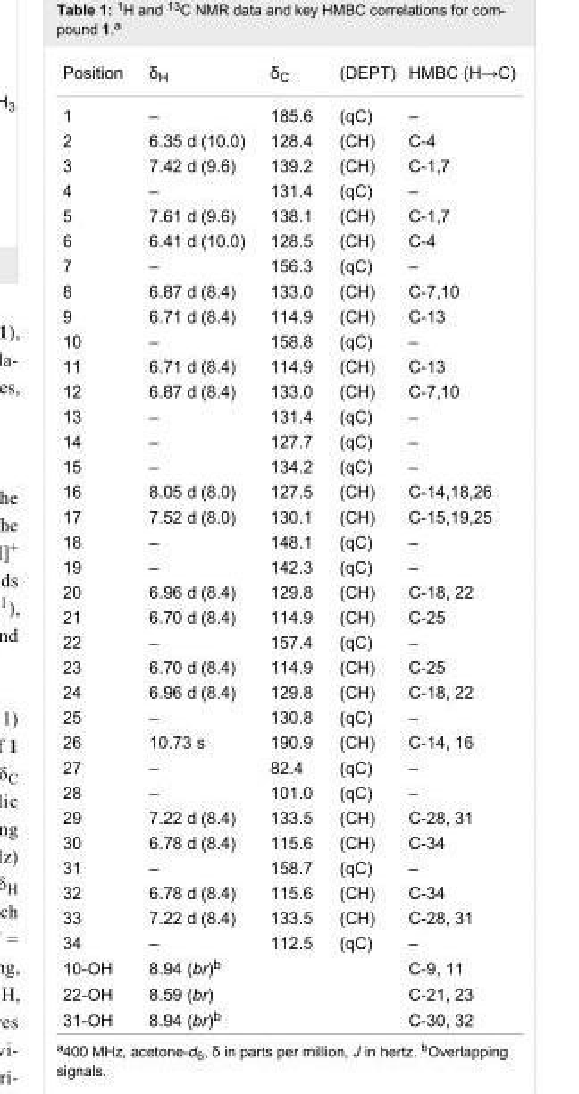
<table><tbody><tr><td>Position</td><td>δ<sub>H</sub></td><td>δ<sub>C</sub></td><td>(DEPT)</td><td>HMBC (H→C)</td></tr><tr><td>1</td><td>–</td><td>185.6</td><td>(qC)</td><td>–</td></tr><tr><td>2</td><td>6.35 d (10.0)</td><td>128.4</td><td>(CH)</td><td>C-4</td></tr><tr><td>3</td><td>7.42 d (9.6)</td><td>139.2</td><td>(CH)</td><td>C-1,7</td></tr><tr><td>4</td><td>–</td><td>131.4</td><td>(qC)</td><td>–</td></tr><tr><td>5</td><td>7.61 d (9.6)</td><td>138.1</td><td>(CH)</td><td>C-1,7</td></tr><tr><td>6</td><td>6.41 d (10.0)</td><td>128.5</td><td>(CH)</td><td>C-4</td></tr><tr><td>7</td><td>–</td><td>156.3</td><td>(qC)</td><td>–</td></tr><tr><td>8</td><td>6.87 d (8.4)</td><td>133.0</td><td>(CH)</td><td>C-7,10</td></tr><tr><td>9</td><td>6.71 d (8.4)</td><td>114.9</td><td>(CH)</td><td>C-13</td></tr><tr><td>10</td><td>–</td><td>158.8</td><td>(qC)</td><td>–</td></tr><tr><td>11</td><td>6.71 d (8.4)</td><td>114.9</td><td>(CH)</td><td>C-13</td></tr><tr><td>12</td><td>6.87 d (8.4)</td><td>133.0</td><td>(CH)</td><td>C-7,10</td></tr><tr><td>13</td><td>–</td><td>131.4</td><td>(qC)</td><td>–</td></tr><tr><td>14</td><td>–</td><td>127.7</td><td>(qC)</td><td>–</td></tr><tr><td>15</td><td>–</td><td>134.2</td><td>(qC)</td><td>–</td></tr><tr><td>16</td><td>8.05 d (8.0)</td><td>127.5</td><td>(CH)</td><td>C-14,18,26</td></tr><tr><td>17</td><td>7.52 d (8.0)</td><td>130.1</td><td>(CH)</td><td>C-15,19,25</td></tr><tr><td>18</td><td>–</td><td>148.1</td><td>(qC)</td><td>–</td></tr><tr><td>19</td><td>–</td><td>142.3</td><td>(qC)</td><td>–</td></tr><tr><td>20</td><td>6.96 d (8.4)</td><td>129.8</td><td>(CH)</td><td>C-18, 22</td></tr><tr><td>21</td><td>6.70 d (8.4)</td><td>114.9</td><td>(CH)</td><td>C-25</td></tr><tr><td>22</td><td>–</td><td>157.4</td><td>(qC)</td><td>–</td></tr><tr><td>23</td><td>6.70 d (8.4)</td><td>114.9</td><td>(CH)</td><td>C-25</td></tr><tr><td>24</td><td>6.96 d (8.4)</td><td>129.8</td><td>(CH)</td><td>C-18, 22</td></tr><tr><td>25</td><td>–</td><td>130.8</td><td>(qC)</td><td>–</td></tr><tr><td>26</td><td>10.73 s</td><td>190.9</td><td>(CH)</td><td>C-14, 16</td></tr><tr><td>27</td><td>–</td><td>82.4</td><td>(qC)</td><td>–</td></tr><tr><td>28</td><td>–</td><td>101.0</td><td>(qC)</td><td>–</td></tr><tr><td>29</td><td>7.22 d (8.4)</td><td>133.5</td><td>(CH)</td><td>C-28, 31</td></tr><tr><td>30</td><td>6.78 d (8.4)</td><td>115.6</td><td>(CH)</td><td>C-34</td></tr><tr><td>31</td><td>–</td><td>158.7</td><td>(qC)</td><td>–</td></tr><tr><td>32</td><td>6.78 d (8.4)</td><td>115.6</td><td>(CH)</td><td>C-34</td></tr><tr><td>33</td><td>7.22 d (8.4)</td><td>133.5</td><td>(CH)</td><td>C-28, 31</td></tr><tr><td>34</td><td>–</td><td>112.5</td><td>(qC)</td><td>–</td></tr><tr><td>10-OH</td><td>8.94 (br)<sup>b</sup></td><td></td><td></td><td>C-9, 11</td></tr><tr><td>22-OH</td><td>8.59 (br)</td><td></td><td></td><td>C-21, 23</td></tr><tr><td>31-OH</td><td>8.94 (br)<sup>b</sup></td><td></td><td></td><td>C-30, 32</td></tr></tbody></table>